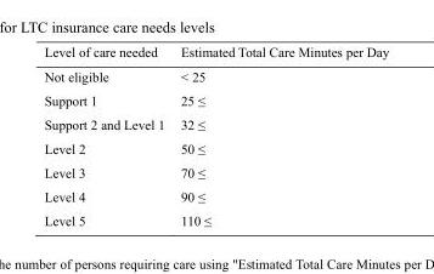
<table><thead><tr><td>Level of care needed</td><td>Estimated Total Care Minutes per Day</td></tr></thead><tbody><tr><td>Not eligible</td><td>&lt; 25</td></tr><tr><td>Support 1</td><td>25 ≤</td></tr><tr><td>Support 2 and Level 1</td><td>32 ≤</td></tr><tr><td>Level 2</td><td>50 ≤</td></tr><tr><td>Level 3</td><td>70 ≤</td></tr><tr><td>Level 4</td><td>90 ≤</td></tr><tr><td>Level 5</td><td>110 ≤</td></tr></tbody></table>